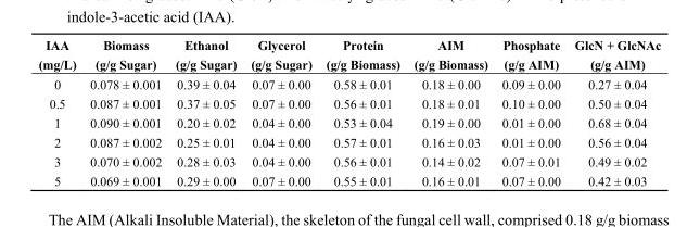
<table><thead><tr><td>IAA (mg/L)</td><td>Biomass (g/g Sugar)</td><td>Ethanol (g/g Sugar)</td><td>Glycerol (g/g Sugar)</td><td>Protein (g/g Biomass)</td><td>AIM (g/g Biomass)</td><td>Phosphate (g/g AIM)</td><td>GlcN + GlcNAc (g/g AIM)</td></tr></thead><tbody><tr><td>0</td><td>0.078 ± 0.001</td><td>0.39 ± 0.04</td><td>0.07 ± 0.00</td><td>0.58 ± 0.01</td><td>0.18 ± 0.00</td><td>0.09 ± 0.00</td><td>0.27 ± 0.04</td></tr><tr><td>0.5</td><td>0.087 ± 0.001</td><td>0.37 ± 0.05</td><td>0.07 ± 0.00</td><td>0.56 ± 0.01</td><td>0.18 ± 0.01</td><td>0.10 ± 0.00</td><td>0.50 ± 0.04</td></tr><tr><td>1</td><td>0.090 ± 0.001</td><td>0.20 ± 0.02</td><td>0.04 ± 0.00</td><td>0.53 ± 0.04</td><td>0.19 ± 0.00</td><td>0.01 ± 0.00</td><td>0.68 ± 0.04</td></tr><tr><td>2</td><td>0.087 ± 0.002</td><td>0.25 ± 0.01</td><td>0.04 ± 0.00</td><td>0.57 ± 0.01</td><td>0.16 ± 0.03</td><td>0.01 ± 0.00</td><td>0.56 ± 0.04</td></tr><tr><td>3</td><td>0.070 ± 0.002</td><td>0.28 ± 0.03</td><td>0.04 ± 0.00</td><td>0.56 ± 0.01</td><td>0.14 ± 0.02</td><td>0.07 ± 0.01</td><td>0.49 ± 0.02</td></tr><tr><td>5</td><td>0.069 ± 0.001</td><td>0.29 ± 0.00</td><td>0.07 ± 0.00</td><td>0.55 ± 0.01</td><td>0.16 ± 0.01</td><td>0.07 ± 0.00</td><td>0.42 ± 0.03</td></tr></tbody></table>